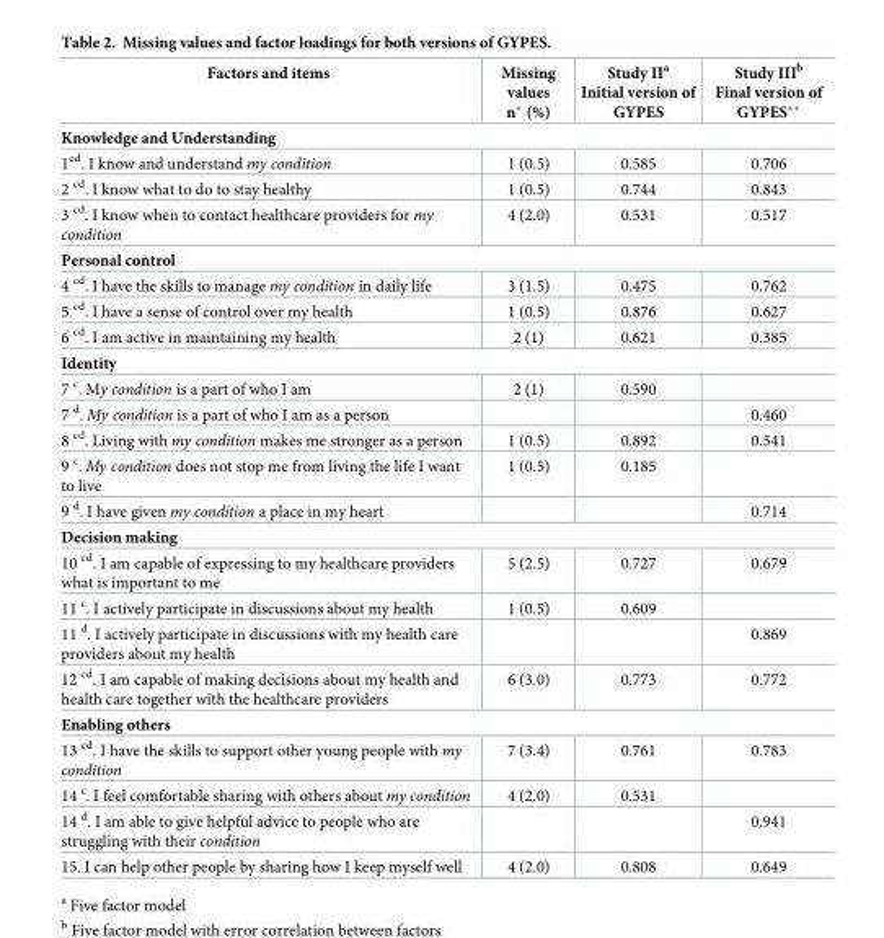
<table><thead><tr><td>Factors and items</td><td>Missing values n* (%)</td><td>Study II<sup>a</sup> Initial version of GYPES</td><td>Study III<sup>b</sup> Final version of GYPES**</td></tr></thead><tbody><tr><td colspan="4">Knowledge and Understanding</td></tr><tr><td>1<sup>cd</sup>. I know and understand my condition</td><td>1 (0.5)</td><td>0.585</td><td>0.706</td></tr><tr><td>2 <sup>cd</sup>. I know what to do to stay healthy</td><td>1 (0.5)</td><td>0.744</td><td>0.843</td></tr><tr><td>3 <sup>cd</sup>. I know when to contact healthcare providers for my condition</td><td>4 (2.0)</td><td>0.531</td><td>0.517</td></tr><tr><td colspan="4">Personal control</td></tr><tr><td>4 <sup>cd</sup>. I have the skills to manage my condition in daily life</td><td>3 (1.5)</td><td>0.475</td><td>0.762</td></tr><tr><td>5 <sup>cd</sup>. I have a sense of control over my health</td><td>1 (0.5)</td><td>0.876</td><td>0.627</td></tr><tr><td>6 <sup>cd</sup>. I am active in maintaining my health</td><td>2 (1)</td><td>0.621</td><td>0.385</td></tr><tr><td colspan="4">Identity</td></tr><tr><td>7 <sup>c</sup>. My condition is a part of who I am</td><td>2 (1)</td><td>0.590</td><td></td></tr><tr><td>7 <sup>d</sup>. My condition is a part of who I am as a person</td><td></td><td></td><td>0.460</td></tr><tr><td>8 <sup>cd</sup>. Living with my condition makes me stronger as a person</td><td>1 (0.5)</td><td>0.892</td><td>0.541</td></tr><tr><td>9 <sup>c</sup>. My condition does not stop me from living the life I want to live</td><td>1 (0.5)</td><td>0.185</td><td></td></tr><tr><td>9 <sup>d</sup>. I have given my condition a place in my heart</td><td></td><td></td><td>0.714</td></tr><tr><td colspan="4">Decision making</td></tr><tr><td>10 <sup>cd</sup>. I am capable of expressing to my healthcare providers what is important to me</td><td>5 (2.5)</td><td>0.727</td><td>0.679</td></tr><tr><td>11 <sup>c</sup>. I actively participate in discussions about my health</td><td>1 (0.5)</td><td>0.609</td><td></td></tr><tr><td>11 <sup>d</sup>. I actively participate in discussions with my health care providers about my health</td><td></td><td></td><td>0.869</td></tr><tr><td>12 <sup>cd</sup>. I am capable of making decisions about my health and health care together with the healthcare providers</td><td>6 (3.0)</td><td>0.773</td><td>0.772</td></tr><tr><td colspan="4">Enabling others</td></tr><tr><td>13 <sup>cd</sup>. I have the skills to support other young people with my condition</td><td>7 (3.4)</td><td>0.761</td><td>0.783</td></tr><tr><td>14 <sup>c</sup>. I feel comfortable sharing with others about my condition</td><td>4 (2.0)</td><td>0.531</td><td></td></tr><tr><td>14 <sup>d</sup>. I am able to give helpful advice to people who are struggling with their condition</td><td></td><td></td><td>0.941</td></tr><tr><td>15. I can help other people by sharing how I keep myself well</td><td>4 (2.0)</td><td>0.808</td><td>0.649</td></tr></tbody></table>